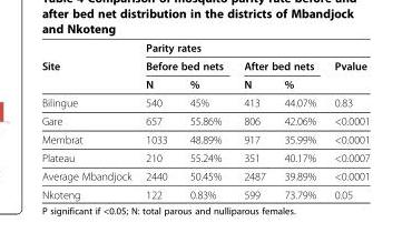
<table><thead><tr><td rowspan="3">Site</td><td colspan="5">Parity rates</td></tr><tr><td colspan="2">Before bed nets</td><td colspan="2">After bed nets</td><td rowspan="2">Pvalue</td></tr><tr><td>N</td><td>%</td><td>N</td><td>%</td></tr></thead><tbody><tr><td>Bilingue</td><td>540</td><td>45%</td><td>413</td><td>44.07%</td><td>0.83</td></tr><tr><td>Gare</td><td>657</td><td>55.86%</td><td>806</td><td>42.06%</td><td>&lt;0.0001</td></tr><tr><td>Membrat</td><td>1033</td><td>48.89%</td><td>917</td><td>35.99%</td><td>&lt;0.0001</td></tr><tr><td>Plateau</td><td>210</td><td>55.24%</td><td>351</td><td>40.17%</td><td>&lt;0.0007</td></tr><tr><td>Average Mbandjock</td><td>2440</td><td>50.45%</td><td>2487</td><td>39.89%</td><td>&lt;0.0001</td></tr><tr><td>Nkoteng</td><td>122</td><td>0.83%</td><td>599</td><td>73.79%</td><td>0.05</td></tr></tbody></table>